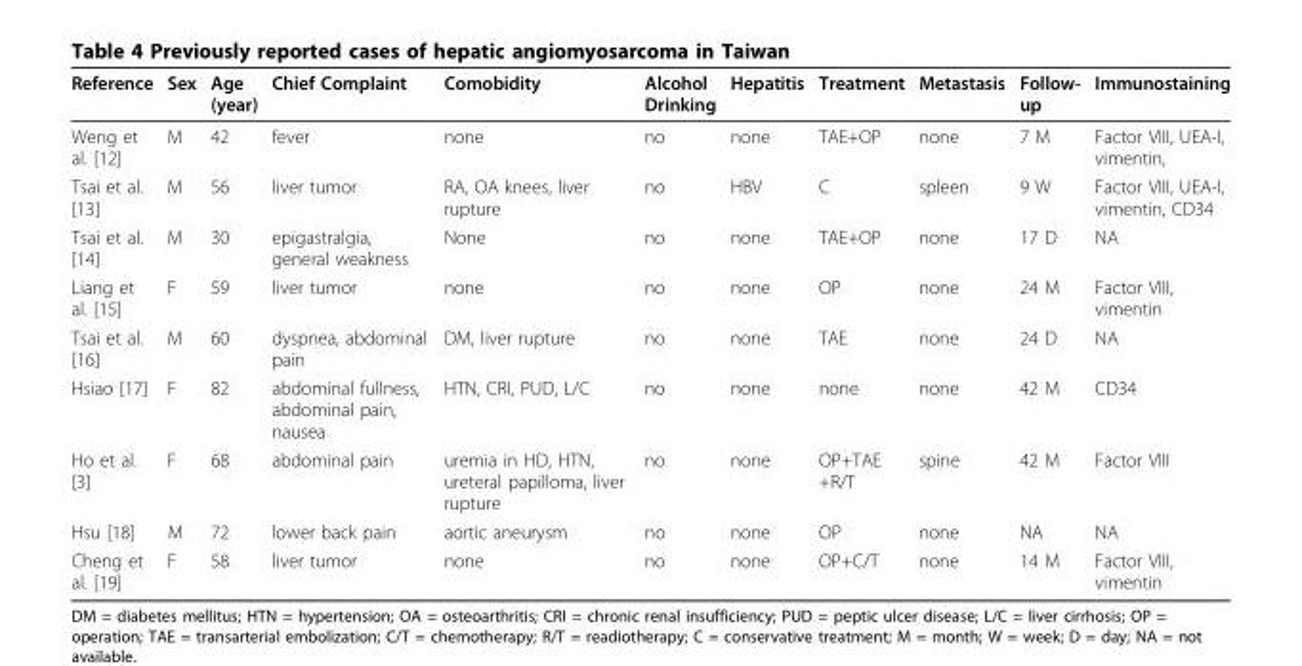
<table><thead><tr><td>Reference</td><td>Sex</td><td>Age (year)</td><td>Chief Complaint</td><td>Comobidity</td><td>Alcohol Drinking</td><td>Hepatitis</td><td>Treatment</td><td>Metastasis</td><td>Follow- up</td><td>Immunostaining</td></tr></thead><tbody><tr><td>Weng et al. [12]</td><td>M</td><td>42</td><td>fever</td><td>none</td><td>no</td><td>none</td><td>TAE+OP</td><td>none</td><td>7 M</td><td>Factor VIII, UEA-I, vimentin,</td></tr><tr><td>Tsai et al. [13]</td><td>M</td><td>56</td><td>liver tumor</td><td>RA, OA knees, liver rupture</td><td>no</td><td>HBV</td><td>C</td><td>spleen</td><td>9 W</td><td>Factor VIII, UEA-I, vimentin, CD34</td></tr><tr><td>Tsai et al. [14]</td><td>M</td><td>30</td><td>epigastralgia, general weakness</td><td>None</td><td>no</td><td>none</td><td>TAE+OP</td><td>none</td><td>17 D</td><td>NA</td></tr><tr><td>Liang et al. [15]</td><td>F</td><td>59</td><td>liver tumor</td><td>none</td><td>no</td><td>none</td><td>OP</td><td>none</td><td>24 M</td><td>Factor VIII, vimentin</td></tr><tr><td>Tsai et al. [16]</td><td>M</td><td>60</td><td>dyspnea, abdominal pain</td><td>DM, liver rupture</td><td>no</td><td>none</td><td>TAE</td><td>none</td><td>24 D</td><td>NA</td></tr><tr><td>Hsiao [17]</td><td>F</td><td>82</td><td>abdominal fullness, abdominal pain, nausea</td><td>HTN, CRI, PUD, L/C</td><td>no</td><td>none</td><td>none</td><td>none</td><td>42 M</td><td>CD34</td></tr><tr><td>Ho et al. [3]</td><td>F</td><td>68</td><td>abdominal pain</td><td>uremia in HD, HTN, ureteral papilloma, liver rupture</td><td>no</td><td>none</td><td>OP+TAE +R/T</td><td>spine</td><td>42 M</td><td>Factor VIII</td></tr><tr><td>Hsu [18]</td><td>M</td><td>72</td><td>lower back pain</td><td>aortic aneurysm</td><td>no</td><td>none</td><td>OP</td><td>none</td><td>NA</td><td>NA</td></tr><tr><td>Cheng et al. [19]</td><td>F</td><td>58</td><td>liver tumor</td><td>none</td><td>no</td><td>none</td><td>OP+C/T</td><td>none</td><td>14 M</td><td>Factor VIII, vimentin</td></tr></tbody></table>